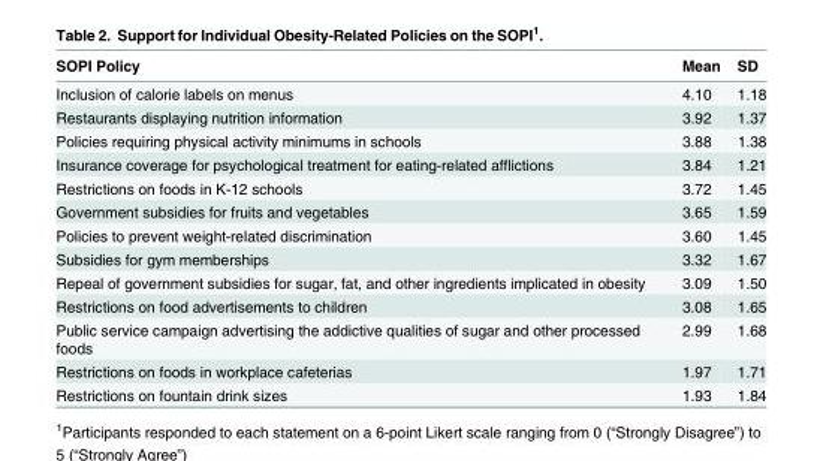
<table><thead><tr><td>SOPI Policy</td><td>Mean</td><td>SD</td></tr></thead><tbody><tr><td>Inclusion of calorie labels on menus</td><td>4.10</td><td>1.18</td></tr><tr><td>Restaurants displaying nutrition information</td><td>3.92</td><td>1.37</td></tr><tr><td>Policies requiring physical activity minimums in schools</td><td>3.88</td><td>1.38</td></tr><tr><td>Insurance coverage for psychological treatment for eating-related afflictions</td><td>3.84</td><td>1.21</td></tr><tr><td>Restrictions on foods in K-12 schools</td><td>3.72</td><td>1.45</td></tr><tr><td>Government subsidies for fruits and vegetables</td><td>3.65</td><td>1.59</td></tr><tr><td>Policies to prevent weight-related discrimination</td><td>3.60</td><td>1.45</td></tr><tr><td>Subsidies for gym memberships</td><td>3.32</td><td>1.67</td></tr><tr><td>Repeal of government subsidies for sugar, fat, and other ingredients implicated in obesity</td><td>3.09</td><td>1.50</td></tr><tr><td>Restrictions on food advertisements to children</td><td>3.08</td><td>1.65</td></tr><tr><td>Public service campaign advertising the addictive qualities of sugar and other processed foods</td><td>2.99</td><td>1.68</td></tr><tr><td>Restrictions on foods in workplace cafeterias</td><td>1.97</td><td>1.71</td></tr><tr><td>Restrictions on fountain drink sizes</td><td>1.93</td><td>1.84</td></tr></tbody></table>